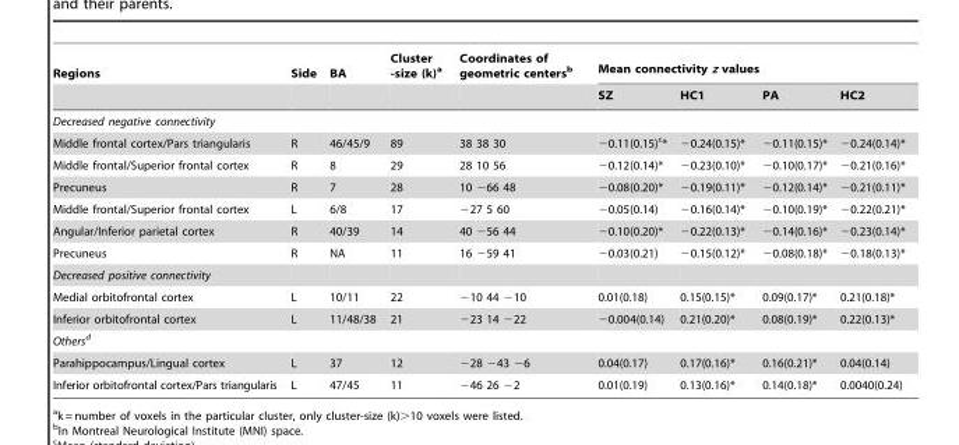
<table><thead><tr><td rowspan="2">Regions</td><td rowspan="2">Side</td><td rowspan="2">BA</td><td rowspan="2">Cluster -size (k)<sup>a</sup></td><td rowspan="2">Coordinates of geometric centers<sup>b</sup></td><td colspan="4">Mean connectivity z values</td></tr><tr><td>SZ</td><td>HC1</td><td>PA</td><td>HC2</td></tr></thead><tbody><tr><td colspan="9">Decreased negative connectivity</td></tr><tr><td>Middle frontal cortex/Pars triangularis</td><td>R</td><td>46/45/9</td><td>89</td><td>38 38 30</td><td>−0.11(0.15)<sup>c</sup>*</td><td>−0.24(0.15)*</td><td>−0.11(0.15)*</td><td>−0.24(0.14)*</td></tr><tr><td>Middle frontal/Superior frontal cortex</td><td>R</td><td>8</td><td>29</td><td>28 10 56</td><td>−0.12(0.14)*</td><td>−0.23(0.10)*</td><td>−0.10(0.17)*</td><td>−0.21(0.16)*</td></tr><tr><td>Precuneus</td><td>R</td><td>7</td><td>28</td><td>10 −66 48</td><td>−0.08(0.20)*</td><td>−0.19(0.11)*</td><td>−0.12(0.14)*</td><td>−0.21(0.11)*</td></tr><tr><td>Middle frontal/Superior frontal cortex</td><td>L</td><td>6/8</td><td>17</td><td>−27 5 60</td><td>−0.05(0.14)</td><td>−0.16(0.14)*</td><td>−0.10(0.19)*</td><td>−0.22(0.21)*</td></tr><tr><td>Angular/Inferior parietal cortex</td><td>R</td><td>40/39</td><td>14</td><td>40 −56 44</td><td>−0.10(0.20)*</td><td>−0.22(0.13)*</td><td>−0.14(0.16)*</td><td>−0.23(0.14)*</td></tr><tr><td>Precuneus</td><td>R</td><td>NA</td><td>11</td><td>16 −59 41</td><td>−0.03(0.21)</td><td>−0.15(0.12)*</td><td>−0.08(0.18)*</td><td>−0.18(0.13)*</td></tr><tr><td colspan="9">Decreased positive connectivity</td></tr><tr><td>Medial orbitofrontal cortex</td><td>L</td><td>10/11</td><td>22</td><td>−10 44 −10</td><td>0.01(0.18)</td><td>0.15(0.15)*</td><td>0.09(0.17)*</td><td>0.21(0.18)*</td></tr><tr><td>Inferior orbitofrontal cortex</td><td>L</td><td>11/48/38</td><td>21</td><td>−23 14 −22</td><td>−0.004(0.14)</td><td>0.21(0.20)*</td><td>0.08(0.19)*</td><td>0.22(0.13)*</td></tr><tr><td colspan="9">Othersd</td></tr><tr><td>Parahippocampus/Lingual cortex</td><td>L</td><td>37</td><td>12</td><td>−28 −43 −6</td><td>0.04(0.17)</td><td>0.17(0.16)*</td><td>0.16(0.21)*</td><td>0.04(0.14)</td></tr><tr><td>Inferior orbitofrontal cortex/Pars triangularis</td><td>L</td><td>47/45</td><td>11</td><td>−46 26 −2</td><td>0.01(0.19)</td><td>0.13(0.16)*</td><td>0.14(0.18)*</td><td>0.0040(0.24)</td></tr></tbody></table>